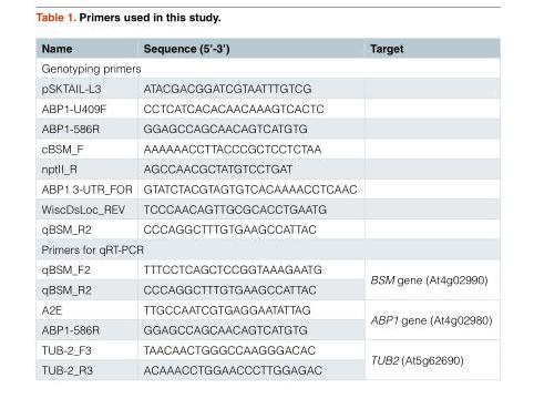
<table><thead><tr><td>Name</td><td>Sequence (5’-3’)</td><td>Target</td></tr></thead><tbody><tr><td colspan="3">Genotyping primers</td></tr><tr><td>pSKTAIL-L3</td><td>ATACGACGGATCGTAATTTGTCG</td><td></td></tr><tr><td>ABP1-U409F</td><td>CCTCATCACACAACAAAGTCACTC</td><td></td></tr><tr><td>ABP1-586R</td><td>GGAGCCAGCAACAGTCATGTG</td><td></td></tr><tr><td>cBSM_F</td><td>AAAAAACCTTACCCGCTCCTCTAA</td><td></td></tr><tr><td>nptII_R</td><td>AGCCAACGCTATGTCCTGAT</td><td></td></tr><tr><td>ABP1 3-UTR_FOR</td><td>GTATCTACGTAGTGTCACAAAACCTCAAC</td><td></td></tr><tr><td>WiscDsLoc_REV</td><td>TCCCAACAGTTGCGCACCTGAATG</td><td></td></tr><tr><td>qBSM_R2</td><td>CCCAGGCTTTGTGAAGCCATTAC</td><td></td></tr><tr><td colspan="3">Primers for qRT-PCR</td></tr><tr><td>qBSM_F2</td><td>TTTCCTCAGCTCCGGTAAAGAATG</td><td rowspan="2">BSM gene (At4g02990)</td></tr><tr><td>qBSM_R2</td><td>CCCAGGCTTTGTGAAGCCATTAC</td></tr><tr><td>A2E</td><td>TTGCCAATCGTGAGGAATATTAG</td><td rowspan="2">ABP1 gene (At4g02980)</td></tr><tr><td>ABP1-586R</td><td>GGAGCCAGCAACAGTCATGTG</td></tr><tr><td>TUB-2_F3</td><td>TAACAACTGGGCCAAGGGACAC</td><td rowspan="2">TUB2 (At5g62690)</td></tr><tr><td>TUB-2_R3</td><td>ACAAACCTGGAACCCTTGGAGAC</td></tr></tbody></table>